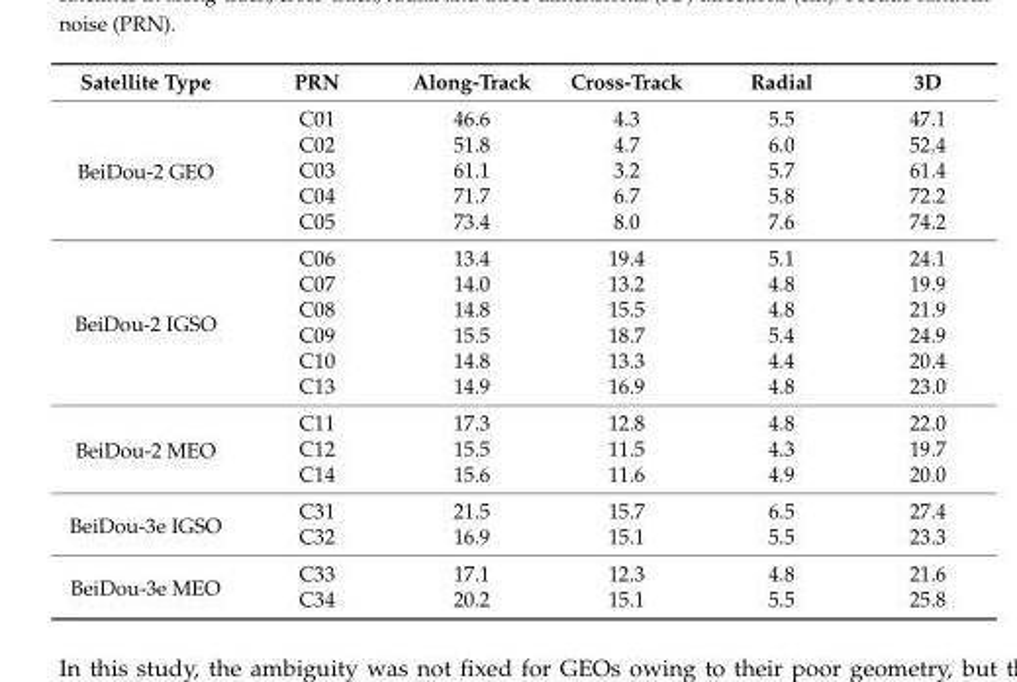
<table><thead><tr><td>Satellite Type</td><td>PRN</td><td>Along-Track</td><td>Cross-Track</td><td>Radial</td><td>3D</td></tr></thead><tbody><tr><td rowspan="5">BeiDou-2 GEO</td><td>C01</td><td>46.6</td><td>4.3</td><td>5.5</td><td>47.1</td></tr><tr><td>C02</td><td>51.8</td><td>4.7</td><td>6.0</td><td>52.4</td></tr><tr><td>C03</td><td>61.1</td><td>3.2</td><td>5.7</td><td>61.4</td></tr><tr><td>C04</td><td>71.7</td><td>6.7</td><td>5.8</td><td>72.2</td></tr><tr><td>C05</td><td>73.4</td><td>8.0</td><td>7.6</td><td>74.2</td></tr><tr><td rowspan="6">BeiDou-2 IGSO</td><td>C06</td><td>13.4</td><td>19.4</td><td>5.1</td><td>24.1</td></tr><tr><td>C07</td><td>14.0</td><td>13.2</td><td>4.8</td><td>19.9</td></tr><tr><td>C08</td><td>14.8</td><td>15.5</td><td>4.8</td><td>21.9</td></tr><tr><td>C09</td><td>15.5</td><td>18.7</td><td>5.4</td><td>24.9</td></tr><tr><td>C10</td><td>14.8</td><td>13.3</td><td>4.4</td><td>20.4</td></tr><tr><td>C13</td><td>14.9</td><td>16.9</td><td>4.8</td><td>23.0</td></tr><tr><td rowspan="3">BeiDou-2 MEO</td><td>C11</td><td>17.3</td><td>12.8</td><td>4.8</td><td>22.0</td></tr><tr><td>C12</td><td>15.5</td><td>11.5</td><td>4.3</td><td>19.7</td></tr><tr><td>C14</td><td>15.6</td><td>11.6</td><td>4.9</td><td>20.0</td></tr><tr><td rowspan="2">BeiDou-3e IGSO</td><td>C31</td><td>21.5</td><td>15.7</td><td>6.5</td><td>27.4</td></tr><tr><td>C32</td><td>16.9</td><td>15.1</td><td>5.5</td><td>23.3</td></tr><tr><td rowspan="2">BeiDou-3e MEO</td><td>C33</td><td>17.1</td><td>12.3</td><td>4.8</td><td>21.6</td></tr><tr><td>C34</td><td>20.2</td><td>15.1</td><td>5.5</td><td>25.8</td></tr></tbody></table>